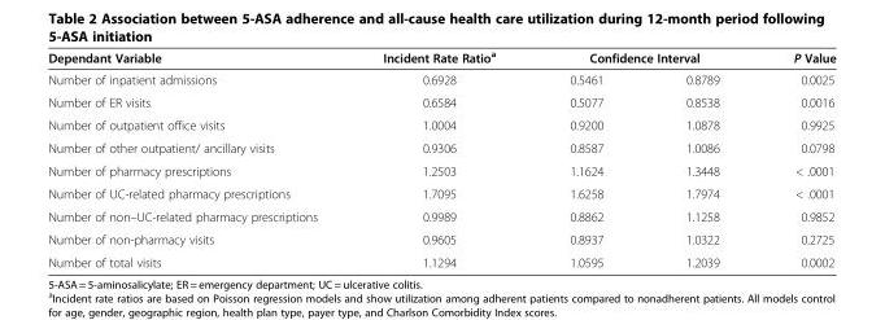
<table><thead><tr><td rowspan="2">Dependant Variable Number of inpatient admissions</td><td rowspan="2">Incident Rate Ratio<sup>a</sup> 0.6928</td><td colspan="2">Confidence Interval</td><td rowspan="2">P Value 0.0025</td></tr><tr><td>0.5461</td><td>0.8789</td></tr></thead><tbody><tr><td>Number of ER visits</td><td>0.6584</td><td>0.5077</td><td>0.8538</td><td>0.0016</td></tr><tr><td>Number of outpatient office visits</td><td>1.0004</td><td>0.9200</td><td>1.0878</td><td>0.9925</td></tr><tr><td>Number of other outpatient/ ancillary visits</td><td>0.9306</td><td>0.8587</td><td>1.0086</td><td>0.0798</td></tr><tr><td>Number of pharmacy prescriptions</td><td>1.2503</td><td>1.1624</td><td>1.3448</td><td>&lt; .0001</td></tr><tr><td>Number of UC-related pharmacy prescriptions</td><td>1.7095</td><td>1.6258</td><td>1.7974</td><td>&lt; .0001</td></tr><tr><td>Number of non–UC-related pharmacy prescriptions</td><td>0.9989</td><td>0.8862</td><td>1.1258</td><td>0.9852</td></tr><tr><td>Number of non-pharmacy visits</td><td>0.9605</td><td>0.8937</td><td>1.0322</td><td>0.2725</td></tr><tr><td>Number of total visits</td><td>1.1294</td><td>1.0595</td><td>1.2039</td><td>0.0002</td></tr></tbody></table>